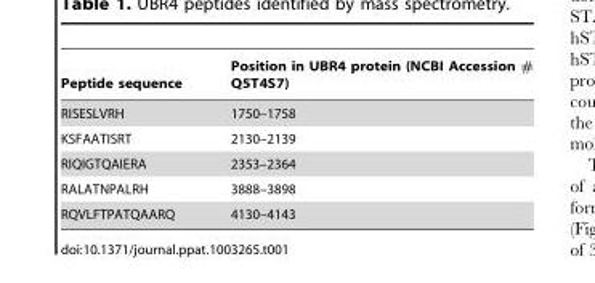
<table><thead><tr><td>Peptide sequence</td><td>Position in UBR4 protein (NCBI Accession # Q5T4S7)</td></tr></thead><tbody><tr><td>RISESLVRH</td><td>1750–1758</td></tr><tr><td>KSFAATISRT</td><td>2130–2139</td></tr><tr><td>RIQIGTQAIERA</td><td>2353–2364</td></tr><tr><td>RALATNPALRH</td><td>3888–3898</td></tr><tr><td>RQVLFTPATQAARQ</td><td>4130–4143</td></tr></tbody></table>